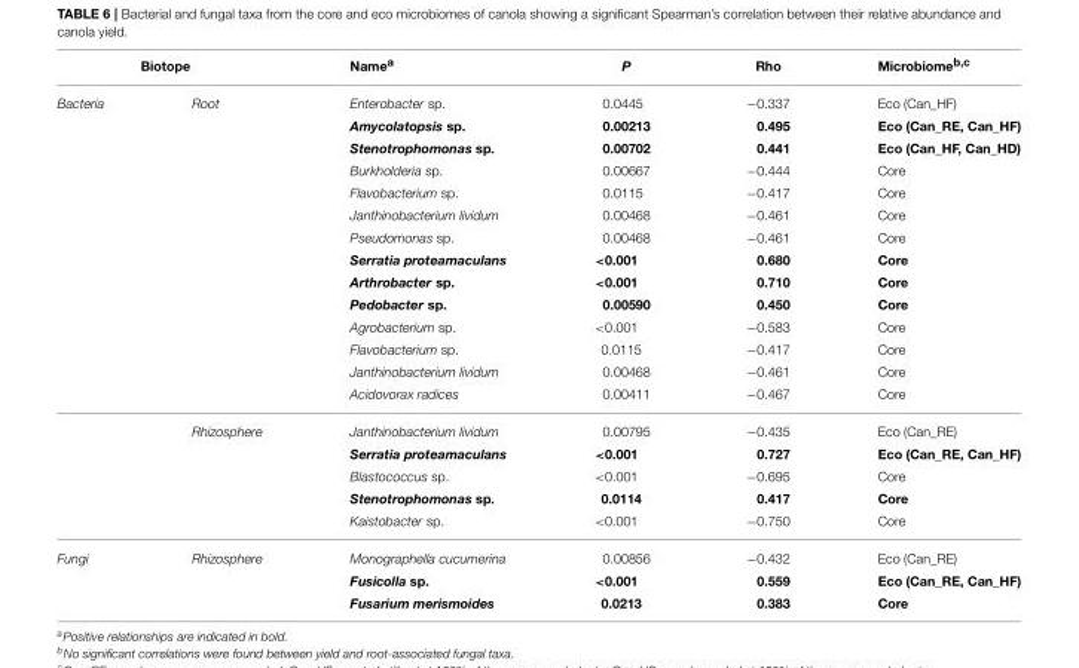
<table><thead><tr><td colspan="2">Biotope</td><td rowspan="2">Name<sup>a</sup> Enterobacter sp.</td><td rowspan="2">P 0.0445</td><td rowspan="2">Rho −0.337</td><td rowspan="2">Microbiome<sup>b,c</sup> Eco (Can_HF)</td></tr><tr><td>Bacteria</td><td>Root</td></tr></thead><tbody><tr><td></td><td></td><td>Amycolatopsis sp.</td><td>0.00213</td><td>0.495</td><td>Eco (Can_RE, Can_HF)</td></tr><tr><td></td><td></td><td>Stenotrophomonas sp.</td><td>0.00702</td><td>0.441</td><td>Eco (Can_HF, Can_HD)</td></tr><tr><td></td><td></td><td>Burkholderia sp.</td><td>0.00667</td><td>−0.444</td><td>Core</td></tr><tr><td></td><td></td><td>Flavobacterium sp.</td><td>0.0115</td><td>−0.417</td><td>Core</td></tr><tr><td></td><td></td><td>Janthinobacterium lividum</td><td>0.00468</td><td>−0.461</td><td>Core</td></tr><tr><td></td><td></td><td>Pseudomonas sp.</td><td>0.00468</td><td>−0.461</td><td>Core</td></tr><tr><td></td><td></td><td>Serratia proteamaculans</td><td>&lt;0.001</td><td>0.680</td><td>Core</td></tr><tr><td></td><td></td><td>Arthrobacter sp.</td><td>&lt;0.001</td><td>0.710</td><td>Core</td></tr><tr><td></td><td></td><td>Pedobacter sp.</td><td>0.00590</td><td>0.450</td><td>Core</td></tr><tr><td></td><td></td><td>Agrobacterium sp.</td><td>&lt;0.001</td><td>−0.583</td><td>Core</td></tr><tr><td></td><td></td><td>Flavobacterium sp.</td><td>0.0115</td><td>−0.417</td><td>Core</td></tr><tr><td></td><td></td><td>Janthinobacterium lividum</td><td>0.00468</td><td>−0.461</td><td>Core</td></tr><tr><td></td><td></td><td>Acidovorax radices</td><td>0.00411</td><td>−0.467</td><td>Core</td></tr><tr><td></td><td>Rhizosphere</td><td>Janthinobacterium lividum</td><td>0.00795</td><td>−0.435</td><td>Eco (Can_RE)</td></tr><tr><td></td><td></td><td>Serratia proteamaculans</td><td>&lt;0.001</td><td>0.727</td><td>Eco (Can_RE, Can_HF)</td></tr><tr><td></td><td></td><td>Blastococcus sp.</td><td>&lt;0.001</td><td>−0.695</td><td>Core</td></tr><tr><td></td><td></td><td>Stenotrophomonas sp.</td><td>0.0114</td><td>0.417</td><td>Core</td></tr><tr><td></td><td></td><td>Kaistobacter sp.</td><td>&lt;0.001</td><td>−0.750</td><td>Core</td></tr><tr><td rowspan="3">Fungi</td><td>Rhizosphere</td><td>Monographella cucumerina</td><td>0.00856</td><td>−0.432</td><td>Eco (Can_RE)</td></tr><tr><td></td><td>Fusicolla sp.</td><td>&lt;0.001</td><td>0.559</td><td>Eco (Can_RE, Can_HF)</td></tr><tr><td></td><td>Fusarium merismoides</td><td>0.0213</td><td>0.383</td><td>Core</td></tr></tbody></table>